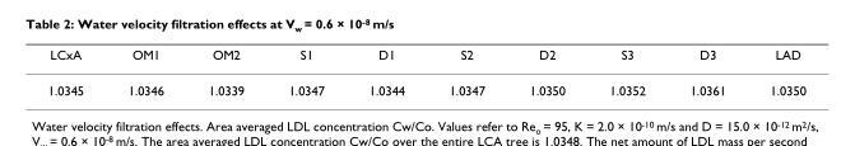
<table><thead><tr><td>LCxA</td><td>OM1</td><td>OM2</td><td>S1</td><td>D1</td><td>S2</td><td>D2</td><td>S3</td><td>D3</td><td>LAD</td></tr></thead><tbody><tr><td>1.0345</td><td>1.0346</td><td>1.0339</td><td>1.0347</td><td>1.0344</td><td>1.0347</td><td>1.0350</td><td>1.0352</td><td>1.0361</td><td>1.0350</td></tr></tbody></table>